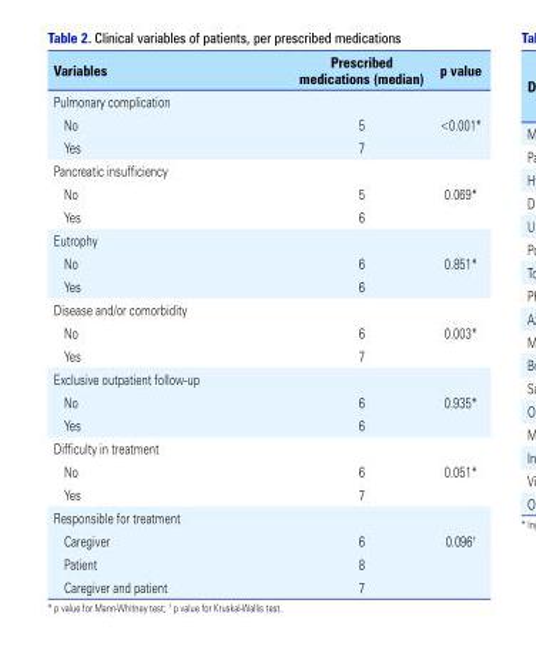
<table><thead><tr><td>Variables</td><td>Prescribed medications (median)</td><td>p value</td></tr></thead><tbody><tr><td colspan="3">Pulmonary complication</td></tr><tr><td>No</td><td>5</td><td>&lt;0.001*</td></tr><tr><td>Yes</td><td>7</td><td></td></tr><tr><td colspan="3">Pancreatic insufficiency</td></tr><tr><td>No</td><td>5</td><td>0.069*</td></tr><tr><td>Yes</td><td>6</td><td></td></tr><tr><td colspan="3">Eutrophy</td></tr><tr><td>No</td><td>6</td><td>0.851*</td></tr><tr><td>Yes</td><td>6</td><td></td></tr><tr><td colspan="3">Disease and/or comorbidity</td></tr><tr><td>No</td><td>6</td><td>0.003*</td></tr><tr><td>Yes</td><td>7</td><td></td></tr><tr><td colspan="3">Exclusive outpatient follow-up</td></tr><tr><td>No</td><td>6</td><td>0.935*</td></tr><tr><td>Yes</td><td>6</td><td></td></tr><tr><td colspan="3">Difficulty in treatment</td></tr><tr><td>No</td><td>6</td><td>0.051*</td></tr><tr><td>Yes</td><td>7</td><td></td></tr><tr><td colspan="3">Responsible for treatment</td></tr><tr><td>Caregiver</td><td>6</td><td>0.096<sup>†</sup></td></tr><tr><td>Patient</td><td>8</td><td></td></tr><tr><td>Caregiver and patient</td><td>7</td><td></td></tr></tbody></table>